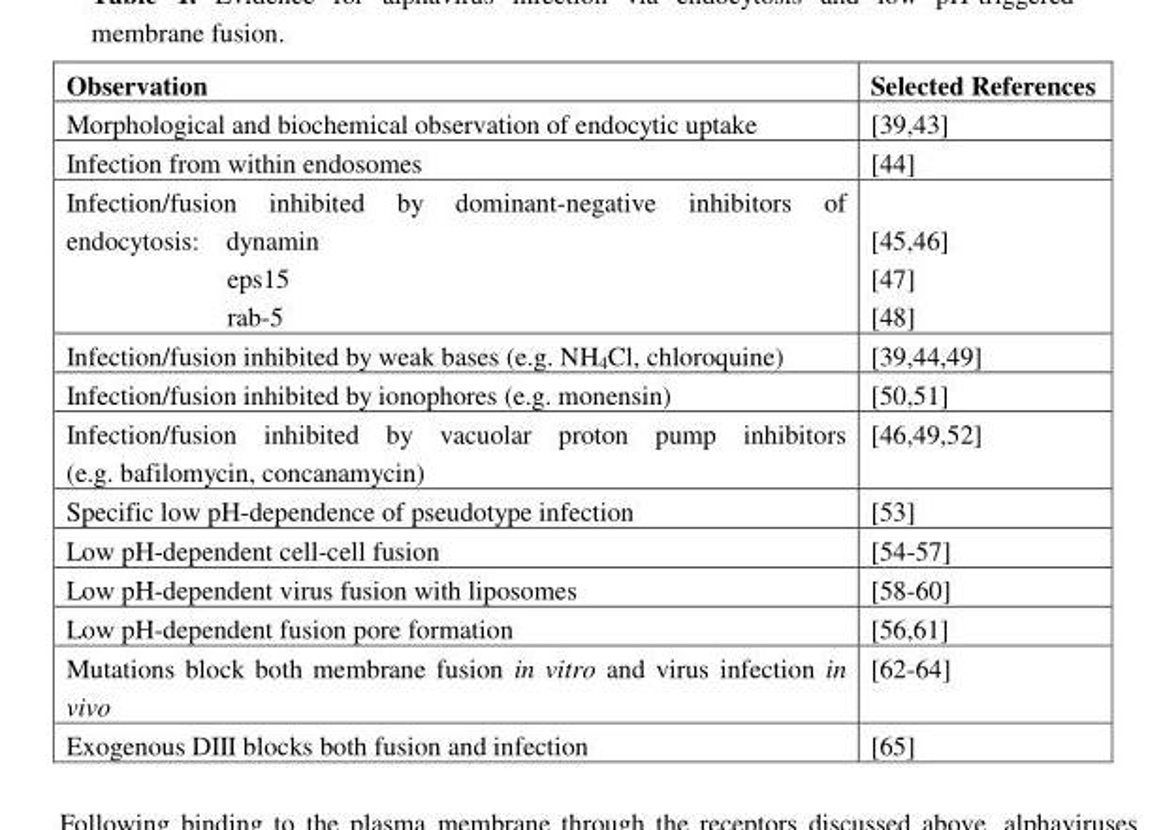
<table><thead><tr><td>Observation</td><td>Selected References</td></tr></thead><tbody><tr><td>Morphological and biochemical observation of endocytic uptake</td><td>[39,43]</td></tr><tr><td>Infection from within endosomes</td><td>[44]</td></tr><tr><td>Infection/fusion inhibited by dominant-negative inhibitors of endocytosis: dynamin eps15 rab-5</td><td>[45,46] [47] [48]</td></tr><tr><td>Infection/fusion inhibited by weak bases (e.g. NH<sub>4</sub>Cl, chloroquine)</td><td>[39,44,49]</td></tr><tr><td>Infection/fusion inhibited by ionophores (e.g. monensin)</td><td>[50,51]</td></tr><tr><td>Infection/fusion inhibited by vacuolar proton pump inhibitors (e.g. bafilomycin, concanamycin)</td><td>[46,49,52]</td></tr><tr><td>Specific low pH-dependence of pseudotype infection</td><td>[53]</td></tr><tr><td>Low pH-dependent cell-cell fusion</td><td>[54-57]</td></tr><tr><td>Low pH-dependent virus fusion with liposomes</td><td>[58-60]</td></tr><tr><td>Low pH-dependent fusion pore formation</td><td>[56,61]</td></tr><tr><td>Mutations block both membrane fusion in vitro and virus infection in vivo</td><td>[62-64]</td></tr><tr><td>Exogenous DIII blocks both fusion and infection</td><td>[65]</td></tr></tbody></table>